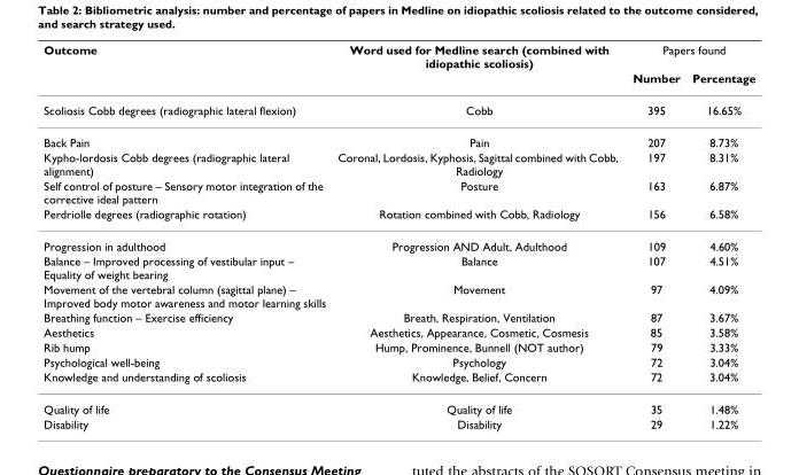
<table><thead><tr><td rowspan="2">Outcome</td><td rowspan="2">Word used for Medline search (combined with idiopathic scoliosis)</td><td colspan="2">Papers found</td></tr><tr><td>Number</td><td>Percentage</td></tr></thead><tbody><tr><td>Scoliosis Cobb degrees (radiographic lateral flexion)</td><td>Cobb</td><td>395</td><td>16.65%</td></tr><tr><td>Back Pain</td><td>Pain</td><td>207</td><td>8.73%</td></tr><tr><td>Kypho-lordosis Cobb degrees (radiographic lateral alignment)</td><td>Coronal, Lordosis, Kyphosis, Sagittal combined with Cobb, Radiology</td><td>197</td><td>8.31%</td></tr><tr><td>Self control of posture – Sensory motor integration of the corrective ideal pattern</td><td>Posture</td><td>163</td><td>6.87%</td></tr><tr><td>Perdriolle degrees (radiographic rotation)</td><td>Rotation combined with Cobb, Radiology</td><td>156</td><td>6.58%</td></tr><tr><td>Progression in adulthood</td><td>Progression AND Adult, Adulthood</td><td>109</td><td>4.60%</td></tr><tr><td>Balance – Improved processing of vestibular input – Equality of weight bearing</td><td>Balance</td><td>107</td><td>4.51%</td></tr><tr><td>Movement of the vertebral column (sagittal plane) – Improved body motor awareness and motor learning skills</td><td>Movement</td><td>97</td><td>4.09%</td></tr><tr><td>Breathing function – Exercise efficiency</td><td>Breath, Respiration, Ventilation</td><td>87</td><td>3.67%</td></tr><tr><td>Aesthetics</td><td>Aesthetics, Appearance, Cosmetic, Cosmesis</td><td>85</td><td>3.58%</td></tr><tr><td>Rib hump</td><td>Hump, Prominence, Bunnell (NOT author)</td><td>79</td><td>3.33%</td></tr><tr><td>Psychological well-being</td><td>Psychology</td><td>72</td><td>3.04%</td></tr><tr><td>Knowledge and understanding of scoliosis</td><td>Knowledge, Belief, Concern</td><td>72</td><td>3.04%</td></tr><tr><td>Quality of life</td><td>Quality of life</td><td>35</td><td>1.48%</td></tr><tr><td>Disability</td><td>Disability</td><td>29</td><td>1.22%</td></tr></tbody></table>